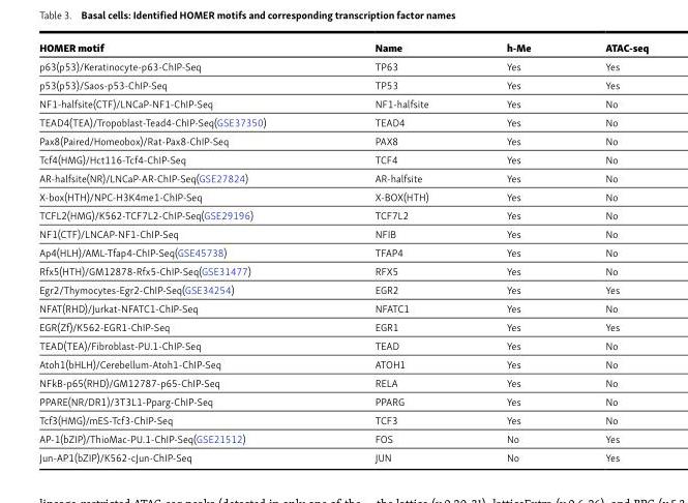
<table><thead><tr><td>HOM ER motif</td><td>Name</td><td>h-Me</td><td>ATAC-seq</td></tr></thead><tbody><tr><td>p63(p53)/Keratinocyte-p63-ChIP-Seq</td><td>TP63</td><td>Yes</td><td>Yes</td></tr><tr><td>p53(p53)/Saos-p53-ChIP-Seq</td><td>TP53</td><td>Yes</td><td>Yes</td></tr><tr><td>NF1-halfsite(CTF)/LNCaP-NF1-ChIP-Seq</td><td>NF1-halfsite</td><td>Yes</td><td>No</td></tr><tr><td>TEAD4(TEA)/Tropoblast-Tead4-ChIP-Seq(GSE37350)</td><td>TEAD4</td><td>Yes</td><td>No</td></tr><tr><td>Pax8(Paired/Homeobox)/Rat-Pax8-ChIP-Seq</td><td>PAX8</td><td>Yes</td><td>No</td></tr><tr><td>Tcf4(HMG)/Hct116-Tcf4-ChIP-Seq</td><td>TCF4</td><td>Yes</td><td>No</td></tr><tr><td>AR-halfsite(NR)/LNCaP-AR-ChIP-Seq(GSE27824)</td><td>AR-halfsite</td><td>Yes</td><td>No</td></tr><tr><td>X-box(HTH)/NPC-H3K4me1-ChIP-Seq</td><td>X-BOX(HTH)</td><td>Yes</td><td>No</td></tr><tr><td>TCFL2(HMG)/K562-TCF7L2-ChIP-Seq(GSE29196)</td><td>TCF7L2</td><td>Yes</td><td>No</td></tr><tr><td>NF1(CTF)/LNC AP-NF1-ChIP-Seq</td><td>NFIB</td><td>Yes</td><td>No</td></tr><tr><td>Ap4(HLH)/AML-Tfap4-ChIP-Seq(GSE45738)</td><td>TFAP4</td><td>Yes</td><td>No</td></tr><tr><td>Rfx5(HTH)/GM12878-Rfx5-ChIP-Seq(GSE31477)</td><td>RFX5</td><td>Yes</td><td>No</td></tr><tr><td>Egr2/Thymocytes-Egr2-ChIP-Seq(GSE34254)</td><td>EGR2</td><td>Yes</td><td>Yes</td></tr><tr><td>NFAT(RHD)/Jurkat-NFA TC1-ChIP-Seq</td><td>NFA TC1</td><td>Yes</td><td>No</td></tr><tr><td>EGR(Zf)/K562-EGR1-ChIP-Seq</td><td>EGR1</td><td>Yes</td><td>Yes</td></tr><tr><td>TEAD(TEA)/Fibroblast-PU.1-ChIP-Seq</td><td>TEAD</td><td>Yes</td><td>No</td></tr><tr><td>Atoh1(bHLH)/Cerebellum-Atoh1-ChIP-Seq</td><td>ATOH1</td><td>Yes</td><td>No</td></tr><tr><td>NFkB-p65(RHD)/GM12787-p65-ChIP-Seq</td><td>RELA</td><td>Yes</td><td>No</td></tr><tr><td>PPA RE(NR/DR1)/3T3L1-Pparg-ChIP-Seq</td><td>PPA RG</td><td>Yes</td><td>No</td></tr><tr><td>Tcf3(HMG)/mES-Tcf3-ChIP-Seq</td><td>TCF3</td><td>Yes</td><td>No</td></tr><tr><td>AP-1(bZIP)/ThioMac-PU.1-ChIP-Seq(GSE21512)</td><td>FOS</td><td>No</td><td>Yes</td></tr><tr><td>Jun-AP1(bZIP)/K562-cJun-ChIP-Seq</td><td>JUN</td><td>No</td><td>Yes</td></tr></tbody></table>